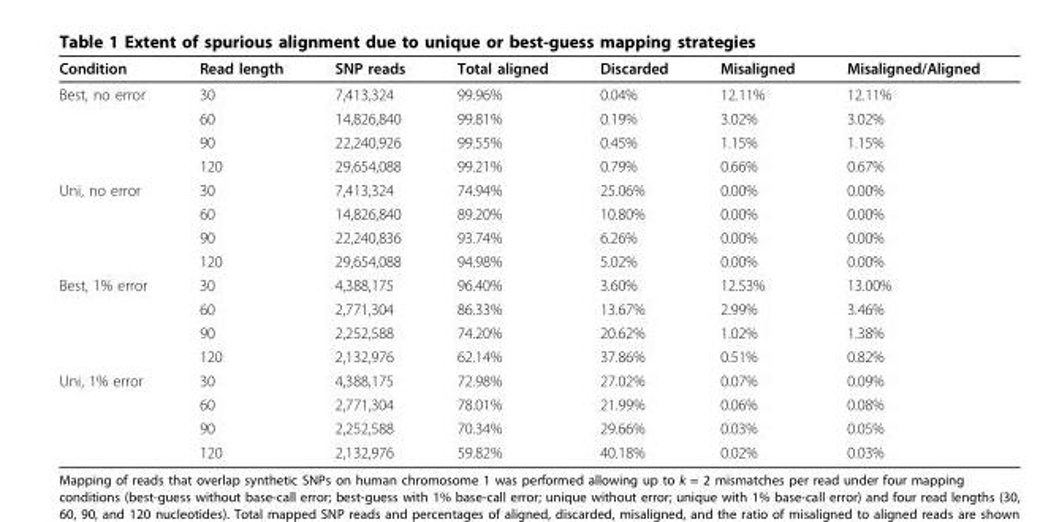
<table><thead><tr><td>Condition</td><td>Read length</td><td>SNP reads</td><td>Total aligned</td><td>Discarded</td><td>Misaligned</td><td>Misaligned/Aligned</td></tr></thead><tbody><tr><td rowspan="4">Best, no error</td><td>30</td><td>7,413,324</td><td>99.96%</td><td>0.04%</td><td>12.11%</td><td>12.11%</td></tr><tr><td>60</td><td>14,826,840</td><td>99.81%</td><td>0.19%</td><td>3.02%</td><td>3.02%</td></tr><tr><td>90</td><td>22,240,926</td><td>99.55%</td><td>0.45%</td><td>1.15%</td><td>1.15%</td></tr><tr><td>120</td><td>29,654,088</td><td>99.21%</td><td>0.79%</td><td>0.66%</td><td>0.67%</td></tr><tr><td rowspan="4">Uni, no error</td><td>30</td><td>7,413,324</td><td>74.94%</td><td>25.06%</td><td>0.00%</td><td>0.00%</td></tr><tr><td>60</td><td>14,826,840</td><td>89.20%</td><td>10.80%</td><td>0.00%</td><td>0.00%</td></tr><tr><td>90</td><td>22,240,836</td><td>93.74%</td><td>6.26%</td><td>0.00%</td><td>0.00%</td></tr><tr><td>120</td><td>29,654,088</td><td>94.98%</td><td>5.02%</td><td>0.00%</td><td>0.00%</td></tr><tr><td rowspan="4">Best, 1% error</td><td>30</td><td>4,388,175</td><td>96.40%</td><td>3.60%</td><td>12.53%</td><td>13.00%</td></tr><tr><td>60</td><td>2,771,304</td><td>86.33%</td><td>13.67%</td><td>2.99%</td><td>3.46%</td></tr><tr><td>90</td><td>2,252,588</td><td>74.20%</td><td>20.62%</td><td>1.02%</td><td>1.38%</td></tr><tr><td>120</td><td>2,132,976</td><td>62.14%</td><td>37.86%</td><td>0.51%</td><td>0.82%</td></tr><tr><td rowspan="4">Uni, 1% error</td><td>30</td><td>4,388,175</td><td>72.98%</td><td>27.02%</td><td>0.07%</td><td>0.09%</td></tr><tr><td>60</td><td>2,771,304</td><td>78.01%</td><td>21.99%</td><td>0.06%</td><td>0.08%</td></tr><tr><td>90</td><td>2,252,588</td><td>70.34%</td><td>29.66%</td><td>0.03%</td><td>0.05%</td></tr><tr><td>120</td><td>2,132,976</td><td>59.82%</td><td>40.18%</td><td>0.02%</td><td>0.03%</td></tr></tbody></table>